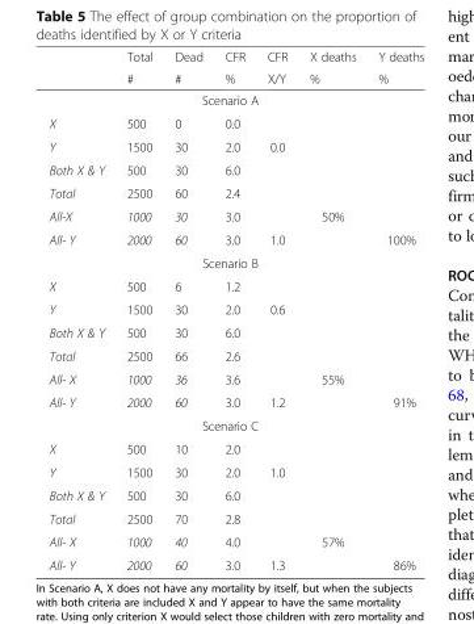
<table><thead><tr><td rowspan="2"></td><td rowspan="2">Total #</td><td rowspan="2">Dead #</td><td rowspan="2">CFR %</td><td rowspan="2">CFR X/Y</td><td rowspan="2">X deaths %</td><td rowspan="2">Y deaths %</td></tr><tr></tr></thead><tbody><tr><td colspan="7">Scenario A</td></tr><tr><td>X</td><td>500</td><td>0</td><td>0.0</td><td></td><td></td><td></td></tr><tr><td>Y</td><td>1500</td><td>30</td><td>2.0</td><td>0.0</td><td></td><td></td></tr><tr><td>Both X &amp; Y</td><td>500</td><td>30</td><td>6.0</td><td></td><td></td><td></td></tr><tr><td>Total</td><td>2500</td><td>60</td><td>2.4</td><td></td><td></td><td></td></tr><tr><td>All-X</td><td>1000</td><td>30</td><td>3.0</td><td></td><td>50%</td><td></td></tr><tr><td>All- Y</td><td>2000</td><td>60</td><td>3.0</td><td>1.0</td><td></td><td>100%</td></tr><tr><td colspan="7">Scenario B</td></tr><tr><td>X</td><td>500</td><td>6</td><td>1.2</td><td></td><td></td><td></td></tr><tr><td>Y</td><td>1500</td><td>30</td><td>2.0</td><td>0.6</td><td></td><td></td></tr><tr><td>Both X &amp; Y</td><td>500</td><td>30</td><td>6.0</td><td></td><td></td><td></td></tr><tr><td>Total</td><td>2500</td><td>66</td><td>2.6</td><td></td><td></td><td></td></tr><tr><td>All- X</td><td>1000</td><td>36</td><td>3.6</td><td></td><td>55%</td><td></td></tr><tr><td>All- Y</td><td>2000</td><td>60</td><td>3.0</td><td>1.2</td><td></td><td>91%</td></tr><tr><td colspan="7">Scenario C</td></tr><tr><td>X</td><td>500</td><td>10</td><td>2.0</td><td></td><td></td><td></td></tr><tr><td>Y</td><td>1500</td><td>30</td><td>2.0</td><td>1.0</td><td></td><td></td></tr><tr><td>Both X &amp; Y</td><td>500</td><td>30</td><td>6.0</td><td></td><td></td><td></td></tr><tr><td>Total</td><td>2500</td><td>70</td><td>2.8</td><td></td><td></td><td></td></tr><tr><td>All- X</td><td>1000</td><td>40</td><td>4.0</td><td></td><td>57%</td><td></td></tr><tr><td>All- Y</td><td>2000</td><td>60</td><td>3.0</td><td>1.3</td><td></td><td>86%</td></tr></tbody></table>